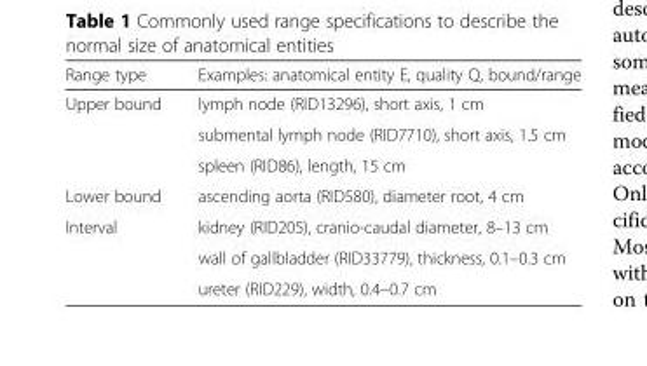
<table><thead><tr><td>Range type</td><td>Examples: anatomical entity E, quality Q, bound/range</td></tr></thead><tbody><tr><td rowspan="3">Upper bound</td><td>lymph node (RID13296), short axis, 1 cm</td></tr><tr><td>submental lymph node (RID7710), short axis, 1.5 cm</td></tr><tr><td>spleen (RID86), length, 15 cm</td></tr><tr><td>Lower bound</td><td>ascending aorta (RID580), diameter root, 4 cm</td></tr><tr><td rowspan="3">Interval</td><td>kidney (RID205), cranio-caudal diameter, 8–13 cm</td></tr><tr><td>wall of gallbladder (RID33779), thickness, 0.1–0.3 cm</td></tr><tr><td>ureter (RID229), width, 0.4–0.7 cm</td></tr></tbody></table>